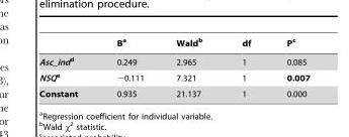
<table><thead><tr><td></td><td>B<sup>a</sup></td><td>Wald<sup>b</sup></td><td>df</td><td>P<sup>c</sup></td></tr></thead><tbody><tr><td>Asc_indd</td><td>0.249</td><td>2.965</td><td>1</td><td>0.085</td></tr><tr><td>NSQe</td><td>−0.111</td><td>7.321</td><td>1</td><td>0.007</td></tr><tr><td>Constant</td><td>0.935</td><td>21.137</td><td>1</td><td>0.000</td></tr></tbody></table>